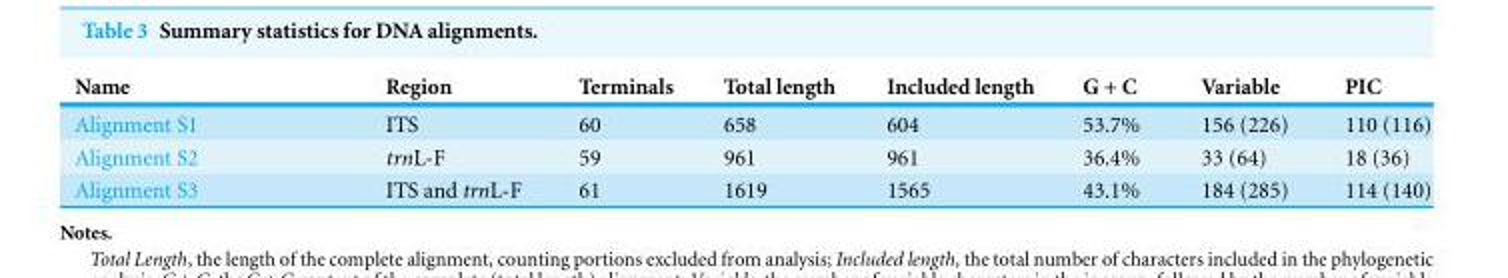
<table><thead><tr><td>Name</td><td>Region</td><td>Terminals</td><td>Total length</td><td>Included length</td><td>G + C</td><td>Variable</td><td>PIC</td></tr></thead><tbody><tr><td>Alignment S1</td><td>ITS</td><td>60</td><td>658</td><td>604</td><td>53.7%</td><td>156 (226)</td><td>110 (116)</td></tr><tr><td>Alignment S2</td><td>trnL-F</td><td>59</td><td>961</td><td>961</td><td>36.4%</td><td>33 (64)</td><td>18 (36)</td></tr><tr><td>Alignment S3</td><td>ITS and trnL-F</td><td>61</td><td>1619</td><td>1565</td><td>43.1%</td><td>184 (285)</td><td>114 (140)</td></tr></tbody></table>